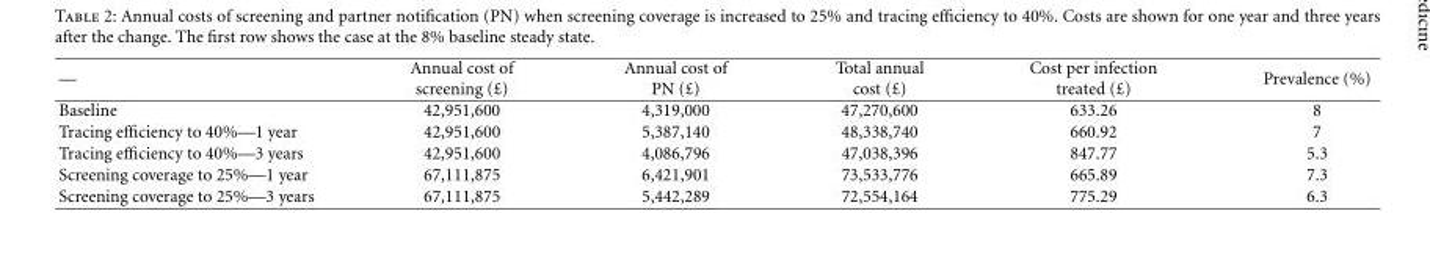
<table><thead><tr><td>—</td><td>Annual cost of screening (£)</td><td>Annual cost of PN (£)</td><td>Total annual cost (£)</td><td>Cost per infection treated (£)</td><td>Prevalence (%)</td></tr></thead><tbody><tr><td>Baseline</td><td>42,951,600</td><td>4,319,000</td><td>47,270,600</td><td>633.26</td><td>8</td></tr><tr><td>Tracing efficiency to 40%—1 year</td><td>42,951,600</td><td>5,387,140</td><td>48,338,740</td><td>660.92</td><td>7</td></tr><tr><td>Tracing efficiency to 40%—3 years</td><td>42,951,600</td><td>4,086,796</td><td>47,038,396</td><td>847.77</td><td>5.3</td></tr><tr><td>Screening coverage to 25%—1 year</td><td>67,111,875</td><td>6,421,901</td><td>73,533,776</td><td>665.89</td><td>7.3</td></tr><tr><td>Screening coverage to 25%—3 years</td><td>67,111,875</td><td>5,442,289</td><td>72,554,164</td><td>775.29</td><td>6.3</td></tr></tbody></table>